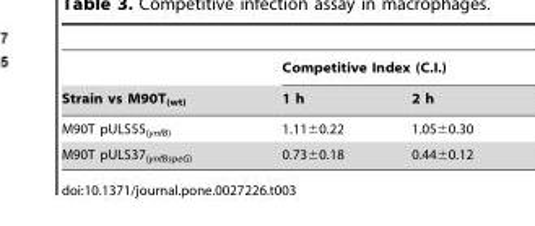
<table><thead><tr><td rowspan="2">Strain vs M90T<sub>(wt)</sub></td><td colspan="2">Competitive Index (C.I.)</td></tr><tr><td>1 h</td><td>2 h</td></tr></thead><tbody><tr><td>M90T pULS55<sub>(ynfB)</sub></td><td>1.11±0.22</td><td>1.05±0.30</td></tr><tr><td>M90T pULS37<sub>(ynfBspeG)</sub></td><td>0.73±0.18</td><td>0.44±0.12</td></tr></tbody></table>